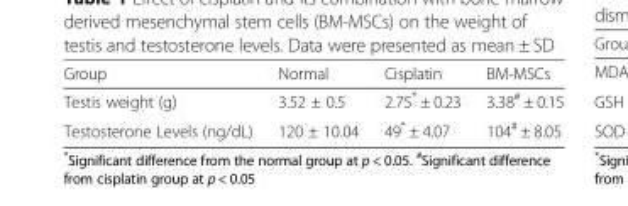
<table><thead><tr><td>Group</td><td>Normal</td><td>Cisplatin</td><td>BM-MSCs</td></tr></thead><tbody><tr><td>Testis weight (g)</td><td>3.52 ± 0.5</td><td>2.75* ± 0.23</td><td>3.38<sup>#</sup> ± 0.15</td></tr><tr><td>Testosterone Levels (ng/dL)</td><td>120 ± 10.04</td><td>49* ± 4.07</td><td>104<sup>#</sup> ± 8.05</td></tr></tbody></table>